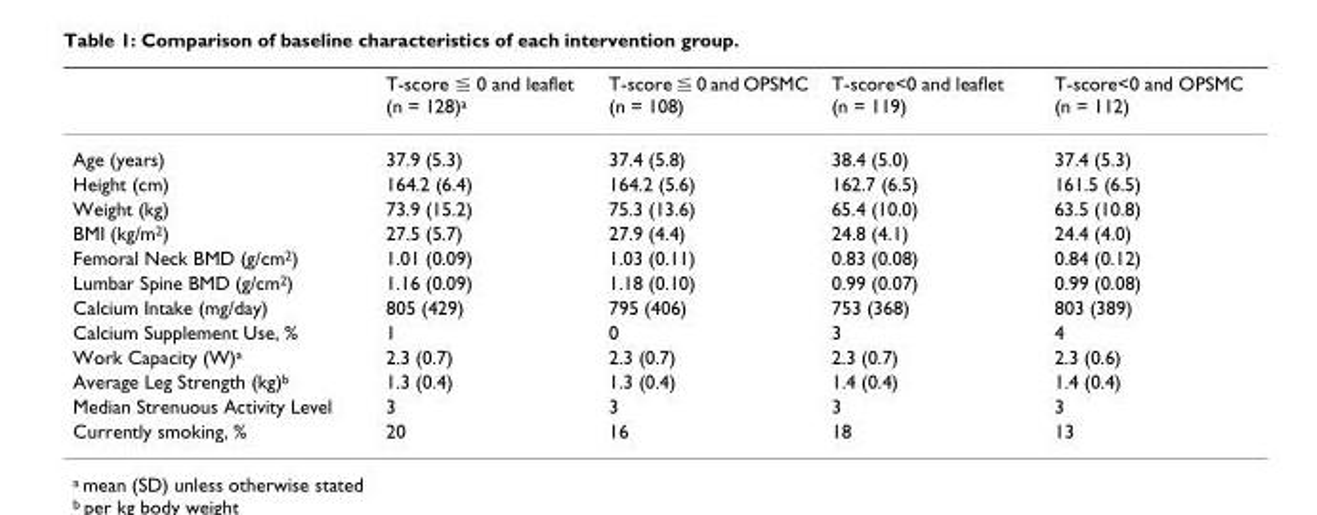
<table><thead><tr><td></td><td>T-score ≦ 0 and leaflet (n = 128)a</td><td>T-score ≦ 0 and OPSMC (n = 108)</td><td>T-score&lt;0 and leaflet (n = 119)</td><td>T-score&lt;0 and OPSMC (n = 112)</td></tr></thead><tbody><tr><td>Age (years)</td><td>37.9 (5.3)</td><td>37.4 (5.8)</td><td>38.4 (5.0)</td><td>37.4 (5.3)</td></tr><tr><td>Height (cm)</td><td>164.2 (6.4)</td><td>164.2 (5.6)</td><td>162.7 (6.5)</td><td>161.5 (6.5)</td></tr><tr><td>Weight (kg)</td><td>73.9 (15.2)</td><td>75.3 (13.6)</td><td>65.4 (10.0)</td><td>63.5 (10.8)</td></tr><tr><td>BMI (kg/m2)</td><td>27.5 (5.7)</td><td>27.9 (4.4)</td><td>24.8 (4.1)</td><td>24.4 (4.0)</td></tr><tr><td>Femoral Neck BMD (g/cm2)</td><td>1.01 (0.09)</td><td>1.03 (0.11)</td><td>0.83 (0.08)</td><td>0.84 (0.12)</td></tr><tr><td>Lumbar Spine BMD (g/cm2)</td><td>1.16 (0.09)</td><td>1.18 (0.10)</td><td>0.99 (0.07)</td><td>0.99 (0.08)</td></tr><tr><td>Calcium Intake (mg/day)</td><td>805 (429)</td><td>795 (406)</td><td>753 (368)</td><td>803 (389)</td></tr><tr><td>Calcium Supplement Use, %</td><td>1</td><td>0</td><td>3</td><td>4</td></tr><tr><td>Work Capacity (W)a</td><td>2.3 (0.7)</td><td>2.3 (0.7)</td><td>2.3 (0.7)</td><td>2.3 (0.6)</td></tr><tr><td>Average Leg Strength (kg)b</td><td>1.3 (0.4)</td><td>1.3 (0.4)</td><td>1.4 (0.4)</td><td>1.4 (0.4)</td></tr><tr><td>Median Strenuous Activity Level</td><td>3</td><td>3</td><td>3</td><td>3</td></tr><tr><td>Currently smoking, %</td><td>20</td><td>16</td><td>18</td><td>13</td></tr></tbody></table>